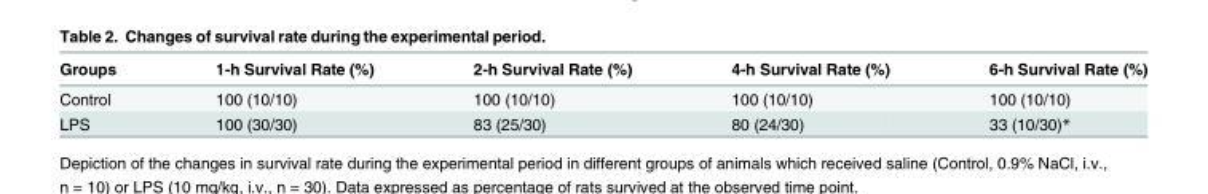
<table><thead><tr><td>Groups</td><td>1-h Survival Rate (%)</td><td>2-h Survival Rate (%)</td><td>4-h Survival Rate (%)</td><td>6-h Survival Rate (%)</td></tr></thead><tbody><tr><td>Control</td><td>100 (10/10)</td><td>100 (10/10)</td><td>100 (10/10)</td><td>100 (10/10)</td></tr><tr><td>LPS</td><td>100 (30/30)</td><td>83 (25/30)</td><td>80 (24/30)</td><td>33 (10/30)*</td></tr></tbody></table>